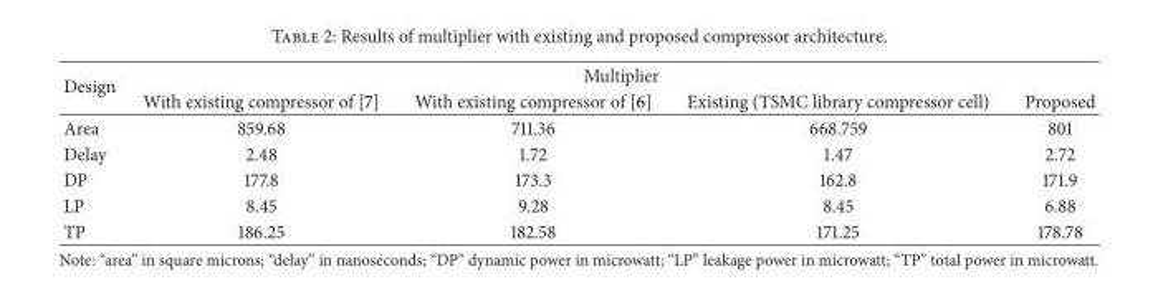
<table><thead><tr><td rowspan="2">Design</td><td colspan="4">Multiplier</td></tr><tr><td>With existing compressor of [7]</td><td>With existing compressor of [6]</td><td>Existing (TSMC library compressor cell)</td><td>Proposed</td></tr></thead><tbody><tr><td>Area</td><td>859.68</td><td>711.36</td><td>668.759</td><td>801</td></tr><tr><td>Delay</td><td>2.48</td><td>1.72</td><td>1.47</td><td>2.72</td></tr><tr><td>DP</td><td>177.8</td><td>173.3</td><td>162.8</td><td>171.9</td></tr><tr><td>LP</td><td>8.45</td><td>9.28</td><td>8.45</td><td>6.88</td></tr><tr><td>TP</td><td>186.25</td><td>182.58</td><td>171.25</td><td>178.78</td></tr></tbody></table>